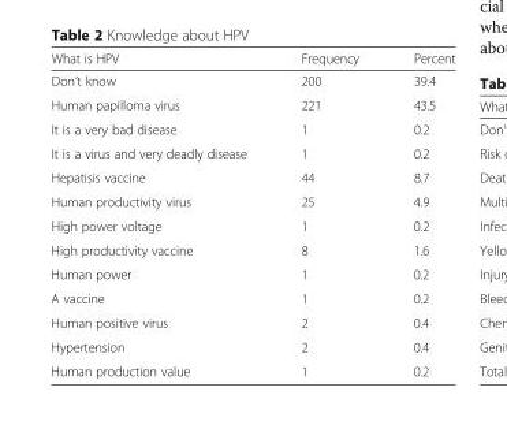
<table><thead><tr><td>What is HPV</td><td>Frequency</td><td>Percent</td></tr></thead><tbody><tr><td>Don’t know</td><td>200</td><td>39.4</td></tr><tr><td>Human papilloma virus</td><td>221</td><td>43.5</td></tr><tr><td>It is a very bad disease</td><td>1</td><td>0.2</td></tr><tr><td>It is a virus and very deadly disease</td><td>1</td><td>0.2</td></tr><tr><td>Hepatisis vaccine</td><td>44</td><td>8.7</td></tr><tr><td>Human productivity virus</td><td>25</td><td>4.9</td></tr><tr><td>High power voltage</td><td>1</td><td>0.2</td></tr><tr><td>High productivity vaccine</td><td>8</td><td>1.6</td></tr><tr><td>Human power</td><td>1</td><td>0.2</td></tr><tr><td>A vaccine</td><td>1</td><td>0.2</td></tr><tr><td>Human positive virus</td><td>2</td><td>0.4</td></tr><tr><td>Hypertension</td><td>2</td><td>0.4</td></tr><tr><td>Human production value</td><td>1</td><td>0.2</td></tr></tbody></table>